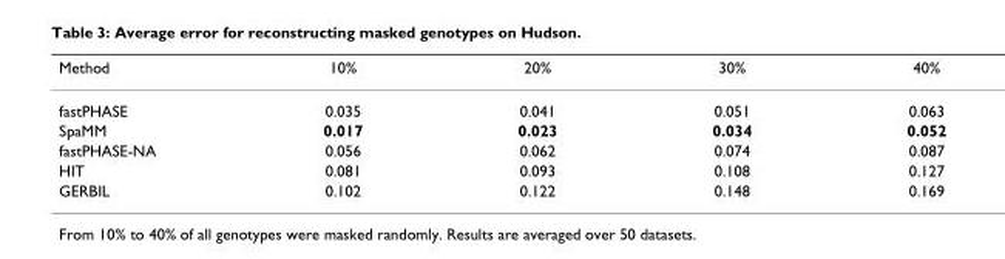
<table><thead><tr><td>Method</td><td>10%</td><td>20%</td><td>30%</td><td>40%</td></tr></thead><tbody><tr><td>fastPHASE</td><td>0.035</td><td>0.041</td><td>0.051</td><td>0.063</td></tr><tr><td>SpaMM</td><td>0.017</td><td>0.023</td><td>0.034</td><td>0.052</td></tr><tr><td>fastPHASE-NA</td><td>0.056</td><td>0.062</td><td>0.074</td><td>0.087</td></tr><tr><td>HIT</td><td>0.081</td><td>0.093</td><td>0.108</td><td>0.127</td></tr><tr><td>GERBIL</td><td>0.102</td><td>0.122</td><td>0.148</td><td>0.169</td></tr></tbody></table>